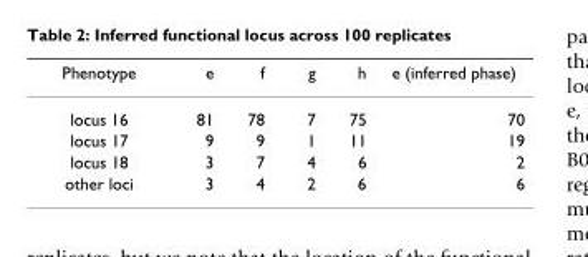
<table><thead><tr><td>Phenotype</td><td>e</td><td>f</td><td>g</td><td>h</td><td>e (inferred phase)</td></tr></thead><tbody><tr><td>locus 16</td><td>81</td><td>78</td><td>7</td><td>75</td><td>70</td></tr><tr><td>locus 17</td><td>9</td><td>9</td><td>1</td><td>11</td><td>19</td></tr><tr><td>locus 18</td><td>3</td><td>7</td><td>4</td><td>6</td><td>2</td></tr><tr><td>other loci</td><td>3</td><td>4</td><td>2</td><td>6</td><td>6</td></tr></tbody></table>